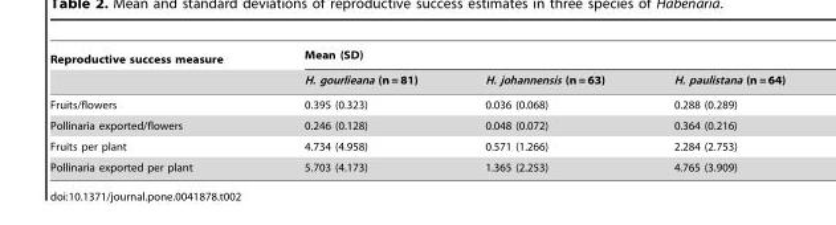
<table><thead><tr><td rowspan="2">Reproductive success measure</td><td colspan="3">Mean (SD)</td></tr><tr><td>H. gourlieana (n = 81)</td><td>H. johannensis (n = 63)</td><td>H. paulistana (n = 64)</td></tr></thead><tbody><tr><td>Fruits/flowers</td><td>0.395 (0.323)</td><td>0.036 (0.068)</td><td>0.288 (0.289)</td></tr><tr><td>Pollinaria exported/flowers</td><td>0.246 (0.128)</td><td>0.048 (0.072)</td><td>0.364 (0.216)</td></tr><tr><td>Fruits per plant</td><td>4.734 (4.958)</td><td>0.571 (1.266)</td><td>2.284 (2.753)</td></tr><tr><td>Pollinaria exported per plant</td><td>5.703 (4.173)</td><td>1.365 (2.253)</td><td>4.765 (3.909)</td></tr></tbody></table>